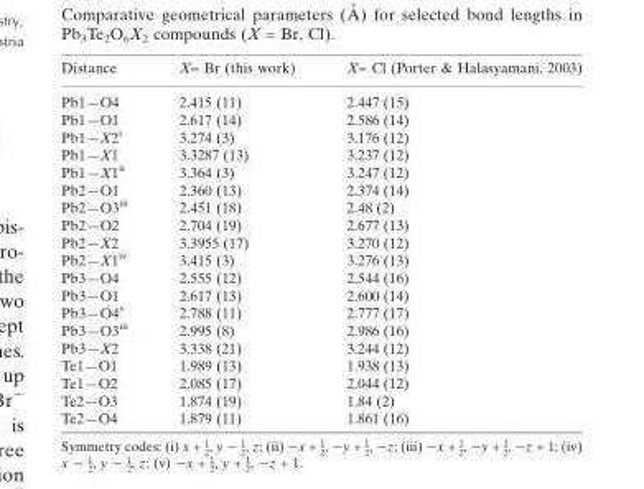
<table><tbody><tr><td>Distance</td><td>X= Br (this work)</td><td>X= Cl (Porter &amp; Halasyamani, 2003)</td></tr><tr><td>Pb1—O4</td><td>2.415 (11)</td><td>2.447 (15)</td></tr><tr><td>Pb1—O1</td><td>2.617 (14)</td><td>2.586 (14)</td></tr><tr><td>Pb1—X2<sup>i</sup></td><td>3.274 (3)</td><td>3.176 (12)</td></tr><tr><td>Pb1—X1</td><td>3.3287 (13)</td><td>3.237 (12)</td></tr><tr><td>Pb1—X1<sup>ii</sup></td><td>3.364 (3)</td><td>3.247 (12)</td></tr><tr><td>Pb2—O1</td><td>2.360 (13)</td><td>2.374 (14)</td></tr><tr><td>Pb2—O3<sup>iii</sup></td><td>2.451 (18)</td><td>2.48 (2)</td></tr><tr><td>Pb2—O2</td><td>2.704 (19)</td><td>2.677 (13)</td></tr><tr><td>Pb2—X2</td><td>3.3955 (17)</td><td>3.270 (12)</td></tr><tr><td>Pb2—X1<sup>iv</sup></td><td>3.415 (3)</td><td>3.276 (13)</td></tr><tr><td>Pb3—O4</td><td>2.555 (12)</td><td>2.544 (16)</td></tr><tr><td>Pb3—O1</td><td>2.617 (13)</td><td>2.600 (14)</td></tr><tr><td>Pb3—O4<sup>v</sup></td><td>2.788 (11)</td><td>2.777 (17)</td></tr><tr><td>Pb3—O3<sup>iii</sup></td><td>2.995 (8)</td><td>2.986 (16)</td></tr><tr><td>Pb3—X2</td><td>3.338 (21)</td><td>3.244 (12)</td></tr><tr><td>Te1—O1</td><td>1.989 (13)</td><td>1.938 (13)</td></tr><tr><td>Te1—O2</td><td>2.085 (17)</td><td>2.044 (12)</td></tr><tr><td>Te2—O3</td><td>1.874 (19)</td><td>1.84 (2)</td></tr><tr><td>Te2—O4</td><td>1.879 (11)</td><td>1.861 (16)</td></tr></tbody></table>